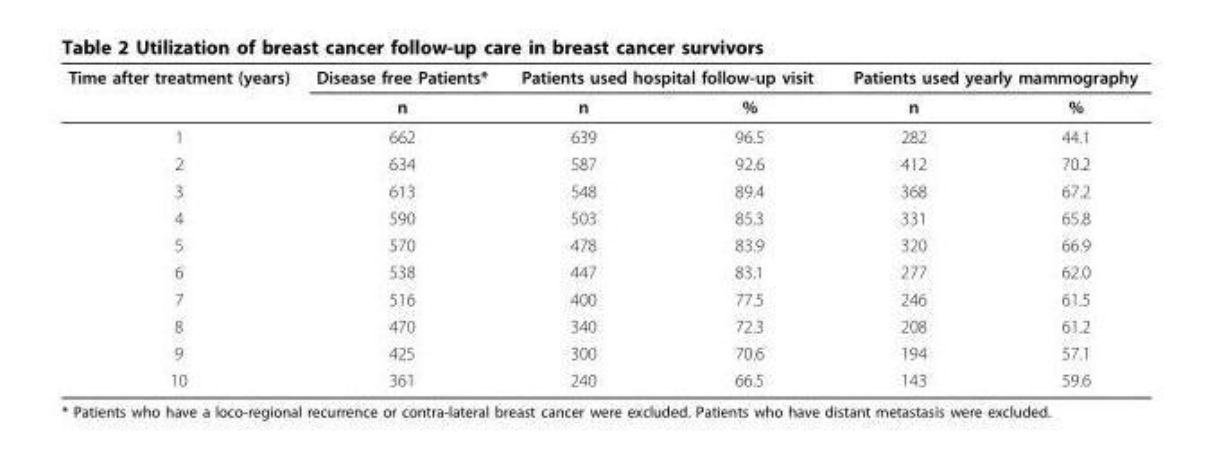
<table><thead><tr><td rowspan="2">Time after treatment (years)</td><td rowspan="2">Disease free Patients* n</td><td colspan="2">Patients used hospital follow-up visit</td><td colspan="2">Patients used yearly mammography</td></tr><tr><td>n</td><td>%</td><td>n</td><td>%</td></tr></thead><tbody><tr><td>1</td><td>662</td><td>639</td><td>96.5</td><td>282</td><td>44.1</td></tr><tr><td>2</td><td>634</td><td>587</td><td>92.6</td><td>412</td><td>70.2</td></tr><tr><td>3</td><td>613</td><td>548</td><td>89.4</td><td>368</td><td>67.2</td></tr><tr><td>4</td><td>590</td><td>503</td><td>85.3</td><td>331</td><td>65.8</td></tr><tr><td>5</td><td>570</td><td>478</td><td>83.9</td><td>320</td><td>66.9</td></tr><tr><td>6</td><td>538</td><td>447</td><td>83.1</td><td>277</td><td>62.0</td></tr><tr><td>7</td><td>516</td><td>400</td><td>77.5</td><td>246</td><td>61.5</td></tr><tr><td>8</td><td>470</td><td>340</td><td>72.3</td><td>208</td><td>61.2</td></tr><tr><td>9</td><td>425</td><td>300</td><td>70.6</td><td>194</td><td>57.1</td></tr><tr><td>10</td><td>361</td><td>240</td><td>66.5</td><td>143</td><td>59.6</td></tr></tbody></table>